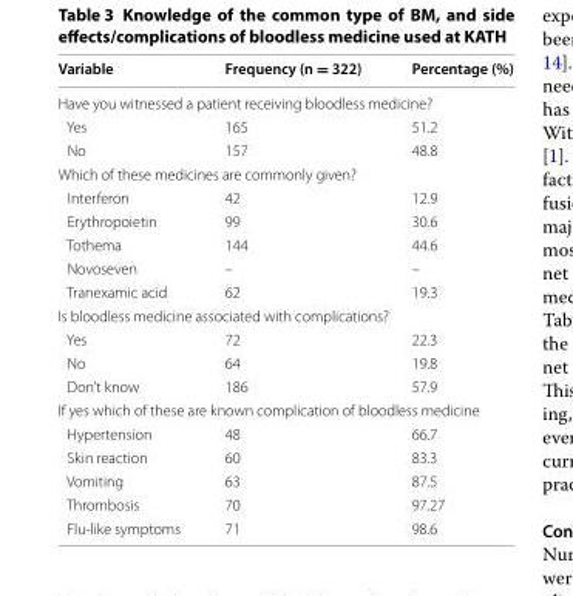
<table><thead><tr><td>Variable</td><td>Frequency (n = 322)</td><td>Percentage (%)</td></tr></thead><tbody><tr><td colspan="3">Have you witnessed a patient receiving bloodless medicine?</td></tr><tr><td>Yes</td><td>165</td><td>51.2</td></tr><tr><td>No</td><td>157</td><td>48.8</td></tr><tr><td colspan="3">Which of these medicines are commonly given?</td></tr><tr><td>Interferon</td><td>42</td><td>12.9</td></tr><tr><td>Erythropoietin</td><td>99</td><td>30.6</td></tr><tr><td>Tothema</td><td>144</td><td>44.6</td></tr><tr><td>Novoseven</td><td>–</td><td>–</td></tr><tr><td>Tranexamic acid</td><td>62</td><td>19.3</td></tr><tr><td colspan="3">Is bloodless medicine associated with complications?</td></tr><tr><td>Yes</td><td>72</td><td>22.3</td></tr><tr><td>No</td><td>64</td><td>19.8</td></tr><tr><td>Don’t know</td><td>186</td><td>57.9</td></tr><tr><td colspan="3">If yes which of these are known complication of bloodless medicine</td></tr><tr><td>Hypertension</td><td>48</td><td>66.7</td></tr><tr><td>Skin reaction</td><td>60</td><td>83.3</td></tr><tr><td>Vomiting</td><td>63</td><td>87.5</td></tr><tr><td>Thrombosis</td><td>70</td><td>97.27</td></tr><tr><td>Flu-like symptoms</td><td>71</td><td>98.6</td></tr></tbody></table>